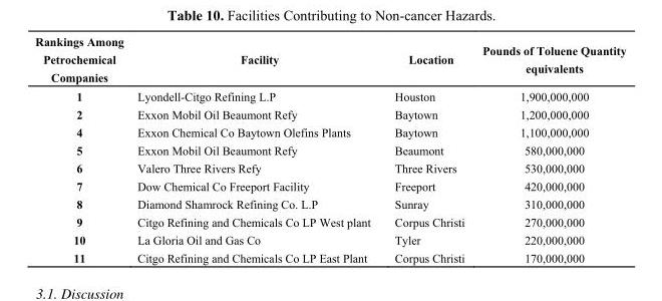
<table><thead><tr><td>Rankings Among Petrochemical Companies</td><td>Facility</td><td>Location</td><td>Pounds of Toluene Quantity equivalents</td></tr></thead><tbody><tr><td>1</td><td>Lyondell-Citgo Refining L.P</td><td>Houston</td><td>1,900,000,000</td></tr><tr><td>2</td><td>Exxon Mobil Oil Beaumont Refy</td><td>Baytown</td><td>1,200,000,000</td></tr><tr><td>4</td><td>Exxon Chemical Co Baytown Olefins Plants</td><td>Baytown</td><td>1,100,000,000</td></tr><tr><td>5</td><td>Exxon Mobil Oil Beaumont Refy</td><td>Beaumont</td><td>580,000,000</td></tr><tr><td>6</td><td>Valero Three Rivers Refy</td><td>Three Rivers</td><td>530,000,000</td></tr><tr><td>7</td><td>Dow Chemical Co Freeport Facility</td><td>Freeport</td><td>420,000,000</td></tr><tr><td>8</td><td>Diamond Shamrock Refining Co. L.P</td><td>Sunray</td><td>310,000,000</td></tr><tr><td>9</td><td>Citgo Refining and Chemicals Co LP West plant</td><td>Corpus Christi</td><td>270,000,000</td></tr><tr><td>10</td><td>La Gloria Oil and Gas Co</td><td>Tyler</td><td>220,000,000</td></tr><tr><td>11</td><td>Citgo Refining and Chemicals Co LP East Plant</td><td>Corpus Christi</td><td>170,000,000</td></tr></tbody></table>